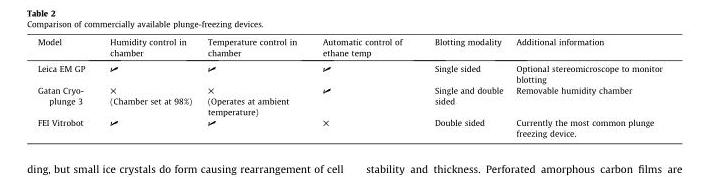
<table><thead><tr><td>Model</td><td>Humidity control in chamber</td><td>Temperature control in chamber</td><td>Automatic control of ethane temp</td><td>Blotting modality</td><td>Additional information</td></tr></thead><tbody><tr><td>Leica EM GP</td><td>✓</td><td>✓</td><td>✓</td><td>Single sided</td><td>Optional stereomicroscope to monitor blotting</td></tr><tr><td>Gatan Cryo- plunge 3</td><td>✕ (Chamber set at 98%)</td><td>✕ (Operates at ambient temperature)</td><td>✓</td><td>Single and double sided</td><td>Removable humidity chamber</td></tr><tr><td>FEI Vitrobot</td><td>✓</td><td>✓</td><td>✕</td><td>Double sided</td><td>Currently the most common plunge freezing device.</td></tr></tbody></table>